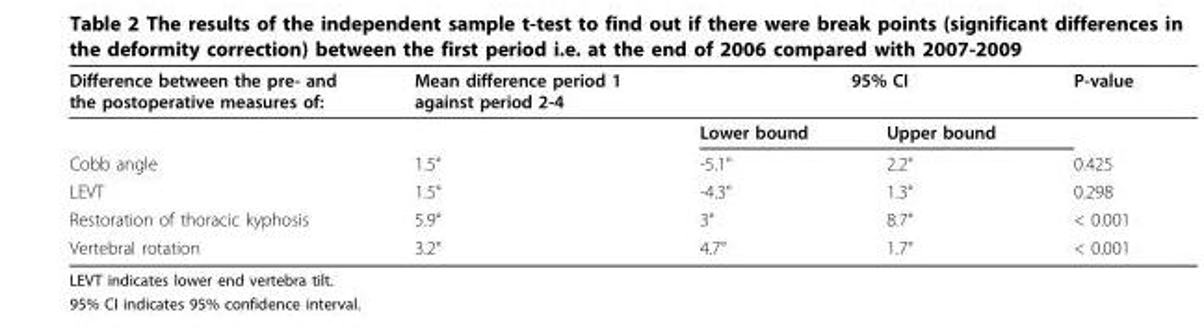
<table><thead><tr><td rowspan="2">Difference between the pre- and the postoperative measures of:</td><td rowspan="2">Mean difference period 1 against period 2-4</td><td colspan="2">95% CI</td><td rowspan="2">P-value</td></tr><tr><td>Lower bound</td><td>Upper bound</td></tr></thead><tbody><tr><td>Cobb angle</td><td>1.5°</td><td>-5.1°</td><td>2.2°</td><td>0.425</td></tr><tr><td>LEVT</td><td>1.5°</td><td>-4.3°</td><td>1.3°</td><td>0.298</td></tr><tr><td>Restoration of thoracic kyphosis</td><td>5.9°</td><td>3°</td><td>8.7°</td><td>&lt; 0.001</td></tr><tr><td>Vertebral rotation</td><td>3.2°</td><td>4.7°</td><td>1.7°</td><td>&lt; 0.001</td></tr></tbody></table>